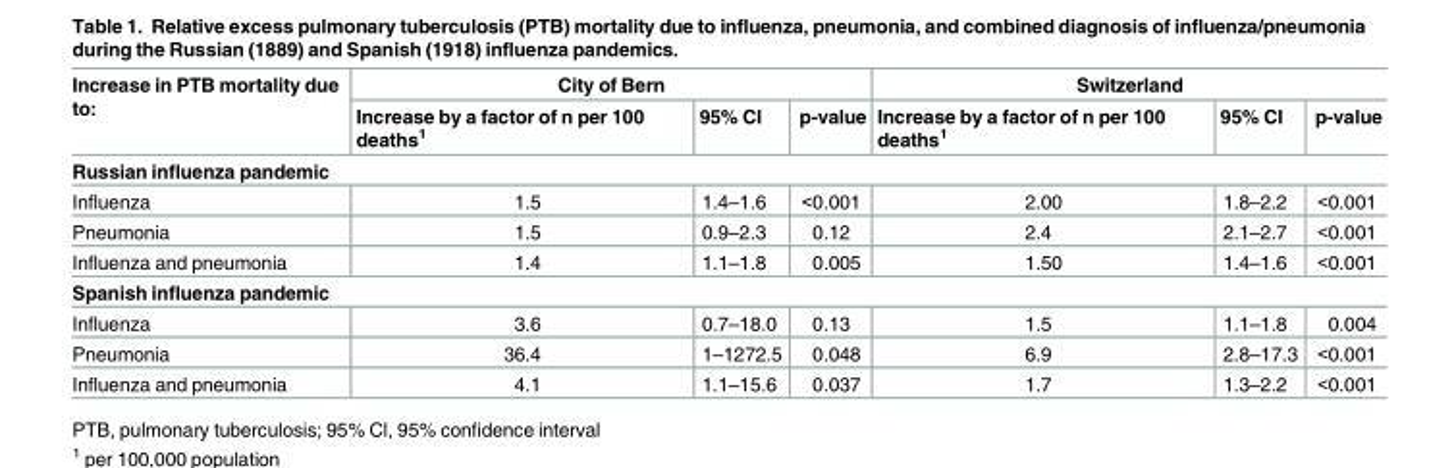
<table><thead><tr><td rowspan="2">Increase in PTB mortality due to:</td><td colspan="3">City of Bern</td><td colspan="3">Switzerland</td></tr><tr><td>Increase by a factor of n per 100 deaths<sup>1</sup></td><td>95% CI</td><td>p-value</td><td>Increase by a factor of n per 100 deaths<sup>1</sup></td><td>95% CI</td><td>p-value</td></tr></thead><tbody><tr><td colspan="7">Russian influenza pandemic</td></tr><tr><td>Influenza</td><td>1.5</td><td>1.4–1.6</td><td>&lt;0.001</td><td>2.00</td><td>1.8–2.2</td><td>&lt;0.001</td></tr><tr><td>Pneumonia</td><td>1.5</td><td>0.9–2.3</td><td>0.12</td><td>2.4</td><td>2.1–2.7</td><td>&lt;0.001</td></tr><tr><td>Influenza and pneumonia</td><td>1.4</td><td>1.1–1.8</td><td>0.005</td><td>1.50</td><td>1.4–1.6</td><td>&lt;0.001</td></tr><tr><td colspan="7">Spanish influenza pandemic</td></tr><tr><td>Influenza</td><td>3.6</td><td>0.7–18.0</td><td>0.13</td><td>1.5</td><td>1.1–1.8</td><td>0.004</td></tr><tr><td>Pneumonia</td><td>36.4</td><td>1–1272.5</td><td>0.048</td><td>6.9</td><td>2.8–17.3</td><td>&lt;0.001</td></tr><tr><td>Influenza and pneumonia</td><td>4.1</td><td>1.1–15.6</td><td>0.037</td><td>1.7</td><td>1.3–2.2</td><td>&lt;0.001</td></tr></tbody></table>